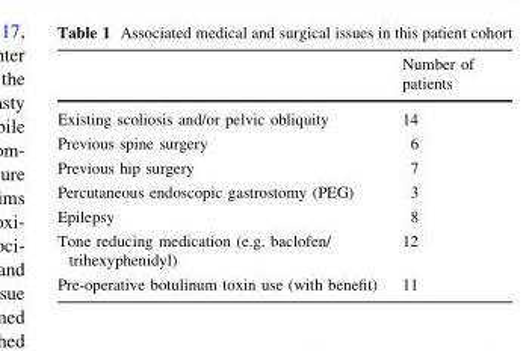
<table><thead><tr><td></td><td>Number of patients</td></tr></thead><tbody><tr><td>Existing scoliosis and/or pelvic obliquity</td><td>14</td></tr><tr><td>Previous spine surgery</td><td>6</td></tr><tr><td>Previous hip surgery</td><td>7</td></tr><tr><td>Percutaneous endoscopic gastrostomy (PEG)</td><td>3</td></tr><tr><td>Epilepsy</td><td>8</td></tr><tr><td>Tone reducing medication (e.g. baclofen/ trihexyphenidyl)</td><td>12</td></tr><tr><td>Pre-operative botulinum toxin use (with benefit)</td><td>11</td></tr></tbody></table>